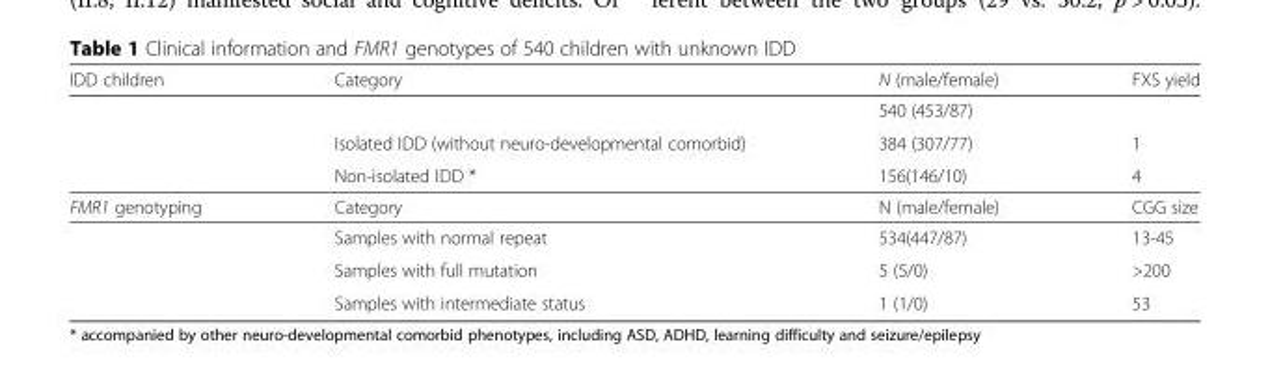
<table><thead><tr><td>IDD children</td><td>Category</td><td>N (male/female)</td><td>FXS yield</td></tr></thead><tbody><tr><td></td><td></td><td>540 (453/87)</td><td></td></tr><tr><td></td><td>Isolated IDD (without neuro-developmental comorbid)</td><td>384 (307/77)</td><td>1</td></tr><tr><td></td><td>Non-isolated IDD *</td><td>156(146/10)</td><td>4</td></tr><tr><td rowspan="4">FMR1 genotyping</td><td>Category</td><td>N (male/female)</td><td>CGG size</td></tr><tr><td>Samples with normal repeat</td><td>534(447/87)</td><td>13-45</td></tr><tr><td>Samples with full mutation</td><td>5 (5/0)</td><td>&gt;200</td></tr><tr><td>Samples with intermediate status</td><td>1 (1/0)</td><td>53</td></tr></tbody></table>